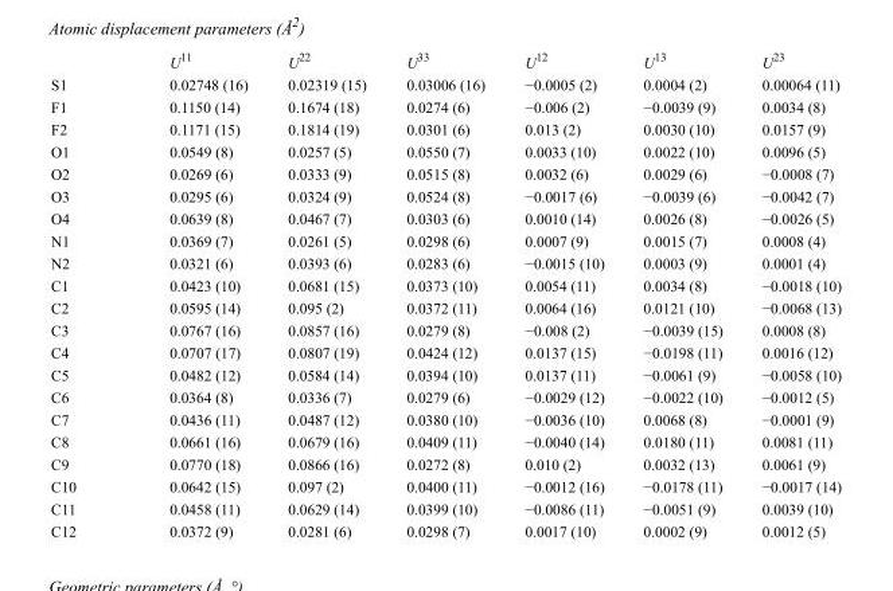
<table><thead><tr><td></td><td>U<sup>11</sup></td><td>U<sup>22</sup></td><td>U<sup>33</sup></td><td>U<sup>12</sup></td><td>U<sup>13</sup></td><td>U<sup>23</sup></td></tr></thead><tbody><tr><td>S1</td><td>0.02748 (16)</td><td>0.02319 (15)</td><td>0.03006 (16)</td><td>−0.0005 (2)</td><td>0.0004 (2)</td><td>0.00064 (11)</td></tr><tr><td>F1</td><td>0.1150 (14)</td><td>0.1674 (18)</td><td>0.0274 (6)</td><td>−0.006 (2)</td><td>−0.0039 (9)</td><td>0.0034 (8)</td></tr><tr><td>F2</td><td>0.1171 (15)</td><td>0.1814 (19)</td><td>0.0301 (6)</td><td>0.013 (2)</td><td>0.0030 (10)</td><td>0.0157 (9)</td></tr><tr><td>O1</td><td>0.0549 (8)</td><td>0.0257 (5)</td><td>0.0550 (7)</td><td>0.0033 (10)</td><td>0.0022 (10)</td><td>0.0096 (5)</td></tr><tr><td>O2</td><td>0.0269 (6)</td><td>0.0333 (9)</td><td>0.0515 (8)</td><td>0.0032 (6)</td><td>0.0029 (6)</td><td>−0.0008 (7)</td></tr><tr><td>O3</td><td>0.0295 (6)</td><td>0.0324 (9)</td><td>0.0524 (8)</td><td>−0.0017 (6)</td><td>−0.0039 (6)</td><td>−0.0042 (7)</td></tr><tr><td>O4</td><td>0.0639 (8)</td><td>0.0467 (7)</td><td>0.0303 (6)</td><td>0.0010 (14)</td><td>0.0026 (8)</td><td>−0.0026 (5)</td></tr><tr><td>N1</td><td>0.0369 (7)</td><td>0.0261 (5)</td><td>0.0298 (6)</td><td>0.0007 (9)</td><td>0.0015 (7)</td><td>0.0008 (4)</td></tr><tr><td>N2</td><td>0.0321 (6)</td><td>0.0393 (6)</td><td>0.0283 (6)</td><td>−0.0015 (10)</td><td>0.0003 (9)</td><td>0.0001 (4)</td></tr><tr><td>C1</td><td>0.0423 (10)</td><td>0.0681 (15)</td><td>0.0373 (10)</td><td>0.0054 (11)</td><td>0.0034 (8)</td><td>−0.0018 (10)</td></tr><tr><td>C2</td><td>0.0595 (14)</td><td>0.095 (2)</td><td>0.0372 (11)</td><td>0.0064 (16)</td><td>0.0121 (10)</td><td>−0.0068 (13)</td></tr><tr><td>C3</td><td>0.0767 (16)</td><td>0.0857 (16)</td><td>0.0279 (8)</td><td>−0.008 (2)</td><td>−0.0039 (15)</td><td>0.0008 (8)</td></tr><tr><td>C4</td><td>0.0707 (17)</td><td>0.0807 (19)</td><td>0.0424 (12)</td><td>0.0137 (15)</td><td>−0.0198 (11)</td><td>0.0016 (12)</td></tr><tr><td>C5</td><td>0.0482 (12)</td><td>0.0584 (14)</td><td>0.0394 (10)</td><td>0.0137 (11)</td><td>−0.0061 (9)</td><td>−0.0058 (10)</td></tr><tr><td>C6</td><td>0.0364 (8)</td><td>0.0336 (7)</td><td>0.0279 (6)</td><td>−0.0029 (12)</td><td>−0.0022 (10)</td><td>−0.0012 (5)</td></tr><tr><td>C7</td><td>0.0436 (11)</td><td>0.0487 (12)</td><td>0.0380 (10)</td><td>−0.0036 (10)</td><td>0.0068 (8)</td><td>−0.0001 (9)</td></tr><tr><td>C8</td><td>0.0661 (16)</td><td>0.0679 (16)</td><td>0.0409 (11)</td><td>−0.0040 (14)</td><td>0.0180 (11)</td><td>0.0081 (11)</td></tr><tr><td>C9</td><td>0.0770 (18)</td><td>0.0866 (16)</td><td>0.0272 (8)</td><td>0.010 (2)</td><td>0.0032 (13)</td><td>0.0061 (9)</td></tr><tr><td>C10</td><td>0.0642 (15)</td><td>0.097 (2)</td><td>0.0400 (11)</td><td>−0.0012 (16)</td><td>−0.0178 (11)</td><td>−0.0017 (14)</td></tr><tr><td>C11</td><td>0.0458 (11)</td><td>0.0629 (14)</td><td>0.0399 (10)</td><td>−0.0086 (11)</td><td>−0.0051 (9)</td><td>0.0039 (10)</td></tr><tr><td>C12</td><td>0.0372 (9)</td><td>0.0281 (6)</td><td>0.0298 (7)</td><td>0.0017 (10)</td><td>0.0002 (9)</td><td>0.0012 (5)</td></tr></tbody></table>